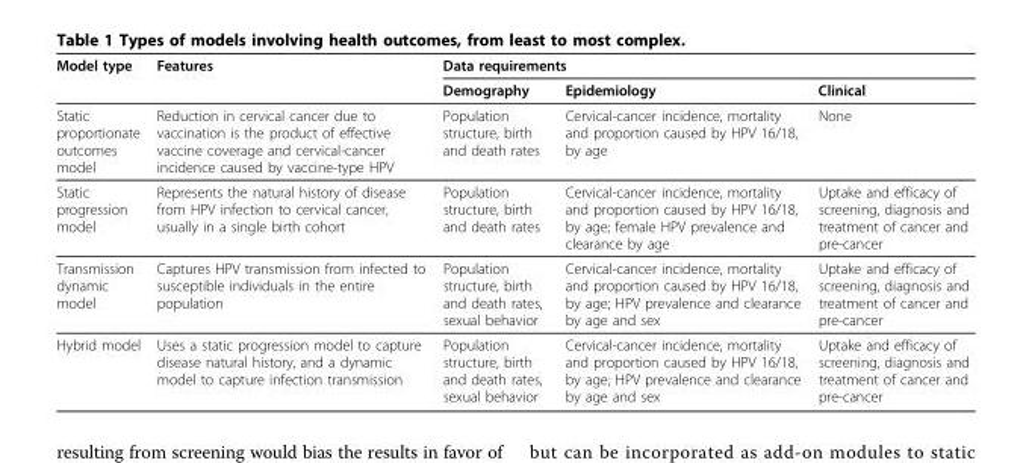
<table><thead><tr><td rowspan="2">Model type</td><td rowspan="2">Features</td><td colspan="3">Data requirements</td></tr><tr><td>Demography</td><td>Epidemiology</td><td>Clinical</td></tr></thead><tbody><tr><td>Static proportionate outcomes model</td><td>Reduction in cervical cancer due to vaccination is the product of effective vaccine coverage and cervical-cancer incidence caused by vaccine-type HPV</td><td>Population structure, birth and death rates</td><td>Cervical-cancer incidence, mortality and proportion caused by HPV 16/18, by age</td><td>None</td></tr><tr><td>Static progression model</td><td>Represents the natural history of disease from HPV infection to cervical cancer, usually in a single birth cohort</td><td>Population structure, birth and death rates</td><td>Cervical-cancer incidence, mortality and proportion caused by HPV 16/18, by age; female HPV prevalence and clearance by age</td><td>Uptake and efficacy of screening, diagnosis and treatment of cancer and pre-cancer</td></tr><tr><td>Transmission dynamic model</td><td>Captures HPV transmission from infected to susceptible individuals in the entire population</td><td>Population structure, birth and death rates, sexual behavior</td><td>Cervical-cancer incidence, mortality and proportion caused by HPV 16/18, by age; HPV prevalence and clearance by age and sex</td><td>Uptake and efficacy of screening, diagnosis and treatment of cancer and pre-cancer</td></tr><tr><td>Hybrid model</td><td>Uses a static progression model to capture disease natural history, and a dynamic model to capture infection transmission</td><td>Population structure, birth and death rates, sexual behavior</td><td>Cervical-cancer incidence, mortality and proportion caused by HPV 16/18, by age; HPV prevalence and clearance by age and sex</td><td>Uptake and efficacy of screening, diagnosis and treatment of cancer and pre-cancer</td></tr></tbody></table>